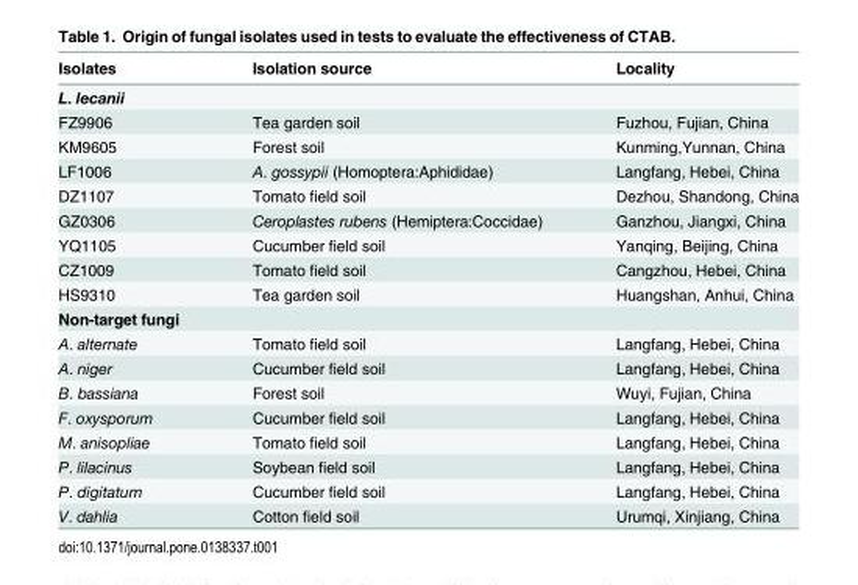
<table><thead><tr><td>Isolates</td><td>Isolation source</td><td>Locality</td></tr></thead><tbody><tr><td colspan="3">L. lecanii</td></tr><tr><td>FZ9906</td><td>Tea garden soil</td><td>Fuzhou, Fujian, China</td></tr><tr><td>KM9605</td><td>Forest soil</td><td>Kunming,Yunnan, China</td></tr><tr><td>LF1006</td><td>A. gossypii (Homoptera:Aphididae)</td><td>Langfang, Hebei, China</td></tr><tr><td>DZ1107</td><td>Tomato field soil</td><td>Dezhou, Shandong, China</td></tr><tr><td>GZ0306</td><td>Ceroplastes rubens (Hemiptera:Coccidae)</td><td>Ganzhou, Jiangxi, China</td></tr><tr><td>YQ1105</td><td>Cucumber field soil</td><td>Yanqing, Beijing, China</td></tr><tr><td>CZ1009</td><td>Tomato field soil</td><td>Cangzhou, Hebei, China</td></tr><tr><td>HS9310</td><td>Tea garden soil</td><td>Huangshan, Anhui, China</td></tr><tr><td colspan="3">Non-target fungi</td></tr><tr><td>A. alternate</td><td>Tomato field soil</td><td>Langfang, Hebei, China</td></tr><tr><td>A. niger</td><td>Cucumber field soil</td><td>Langfang, Hebei, China</td></tr><tr><td>B. bassiana</td><td>Forest soil</td><td>Wuyi, Fujian, China</td></tr><tr><td>F. oxysporum</td><td>Cucumber field soil</td><td>Langfang, Hebei, China</td></tr><tr><td>M. anisopliae</td><td>Tomato field soil</td><td>Langfang, Hebei, China</td></tr><tr><td>P. lilacinus</td><td>Soybean field soil</td><td>Langfang, Hebei, China</td></tr><tr><td>P. digitatum</td><td>Cucumber field soil</td><td>Langfang, Hebei, China</td></tr><tr><td>V. dahlia</td><td>Cotton field soil</td><td>Urumqi, Xinjiang, China</td></tr></tbody></table>